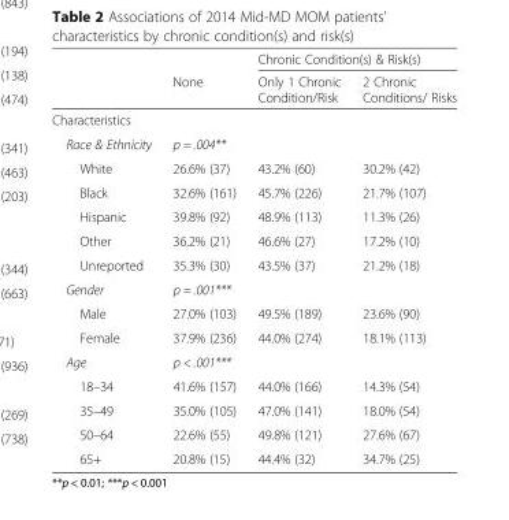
<table><thead><tr><td rowspan="2"></td><td rowspan="2">None</td><td colspan="2">Chronic Condition(s) &amp; Risk(s)</td></tr><tr><td>Only 1 Chronic Condition/Risk</td><td>2 Chronic Conditions/ Risks</td></tr></thead><tbody><tr><td colspan="4">Characteristics</td></tr><tr><td>Race &amp; Ethnicity</td><td>p = .004**</td><td></td><td></td></tr><tr><td>White</td><td>26.6% (37)</td><td>43.2% (60)</td><td>30.2% (42)</td></tr><tr><td>Black</td><td>32.6% (161)</td><td>45.7% (226)</td><td>21.7% (107)</td></tr><tr><td>Hispanic</td><td>39.8% (92)</td><td>48.9% (113)</td><td>11.3% (26)</td></tr><tr><td>Other</td><td>36.2% (21)</td><td>46.6% (27)</td><td>17.2% (10)</td></tr><tr><td>Unreported</td><td>35.3% (30)</td><td>43.5% (37)</td><td>21.2% (18)</td></tr><tr><td>Gender</td><td>p = .001***</td><td></td><td></td></tr><tr><td>Male</td><td>27.0% (103)</td><td>49.5% (189)</td><td>23.6% (90)</td></tr><tr><td>Female</td><td>37.9% (236)</td><td>44.0% (274)</td><td>18.1% (113)</td></tr><tr><td>Age</td><td>p &lt; .001***</td><td></td><td></td></tr><tr><td>18–34</td><td>41.6% (157)</td><td>44.0% (166)</td><td>14.3% (54)</td></tr><tr><td>35–49</td><td>35.0% (105)</td><td>47.0% (141)</td><td>18.0% (54)</td></tr><tr><td>50–64</td><td>22.6% (55)</td><td>49.8% (121)</td><td>27.6% (67)</td></tr><tr><td>65+</td><td>20.8% (15)</td><td>44.4% (32)</td><td>34.7% (25)</td></tr></tbody></table>